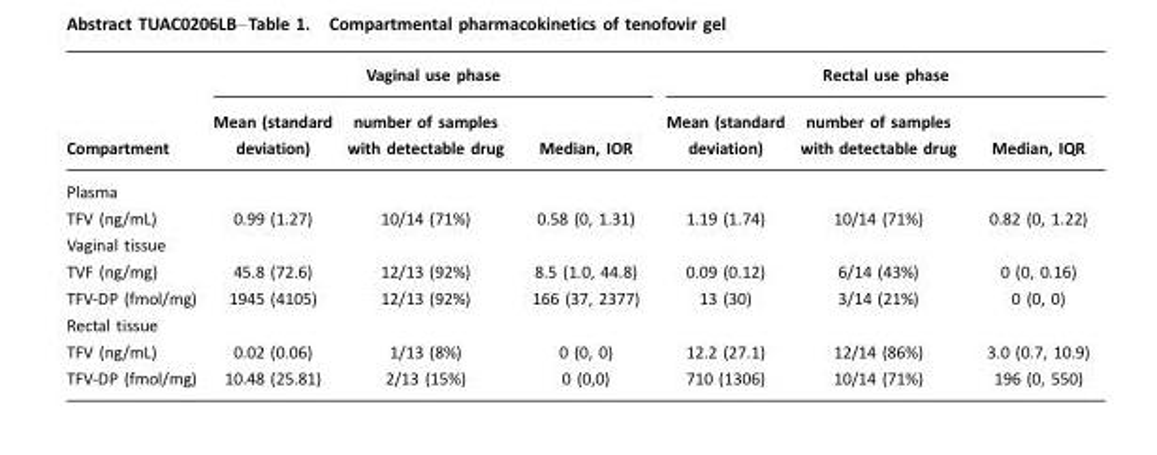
<table><thead><tr><td rowspan="2">Compartment</td><td colspan="3">Vaginal use phase</td><td colspan="3">Rectal use phase</td></tr><tr><td>Mean (standard deviation)</td><td>number of samples with detectable drug</td><td>Median, IOR</td><td>Mean (standard deviation)</td><td>number of samples with detectable drug</td><td>Median, IQR</td></tr></thead><tbody><tr><td colspan="7">Plasma</td></tr><tr><td>TFV (ng/mL)</td><td>0.99 (1.27)</td><td>10/14 (71%)</td><td>0.58 (0, 1.31)</td><td>1.19 (1.74)</td><td>10/14 (71%)</td><td>0.82 (0, 1.22)</td></tr><tr><td colspan="7">Vaginal tissue</td></tr><tr><td>TVF (ng/mg)</td><td>45.8 (72.6)</td><td>12/13 (92%)</td><td>8.5 (1.0, 44.8)</td><td>0.09 (0.12)</td><td>6/14 (43%)</td><td>0 (0, 0.16)</td></tr><tr><td>TFV-DP (fmol/mg)</td><td>1945 (4105)</td><td>12/13 (92%)</td><td>166 (37, 2377)</td><td>13 (30)</td><td>3/14 (21%)</td><td>0 (0, 0)</td></tr><tr><td colspan="7">Rectal tissue</td></tr><tr><td>TFV (ng/mL)</td><td>0.02 (0.06)</td><td>1/13 (8%)</td><td>0 (0, 0)</td><td>12.2 (27.1)</td><td>12/14 (86%)</td><td>3.0 (0.7, 10.9)</td></tr><tr><td>TFV-DP (fmol/mg)</td><td>10.48 (25.81)</td><td>2/13 (15%)</td><td>0 (0,0)</td><td>710 (1306)</td><td>10/14 (71%)</td><td>196 (0, 550)</td></tr></tbody></table>